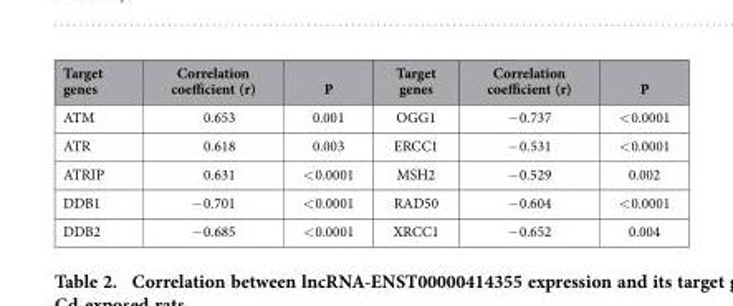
<table><thead><tr><td>Target genes</td><td>Correlation coefficient (r)</td><td>P</td><td>Target genes</td><td>Correlation coefficient (r)</td><td>P</td></tr></thead><tbody><tr><td>ATM</td><td>0.653</td><td>0.001</td><td>OGG1</td><td>− 0.737</td><td>&lt; 0.0001</td></tr><tr><td>ATR</td><td>0.618</td><td>0.003</td><td>ERCC1</td><td>− 0.531</td><td>&lt; 0.0001</td></tr><tr><td>ATRIP</td><td>0.631</td><td>&lt; 0.0001</td><td>MSH2</td><td>− 0.529</td><td>0.002</td></tr><tr><td>DDB1</td><td>− 0.701</td><td>&lt; 0.0001</td><td>RAD50</td><td>− 0.604</td><td>&lt; 0.0001</td></tr><tr><td>DDB2</td><td>− 0.685</td><td>&lt; 0.0001</td><td>XRCC1</td><td>− 0.652</td><td>0.004</td></tr></tbody></table>